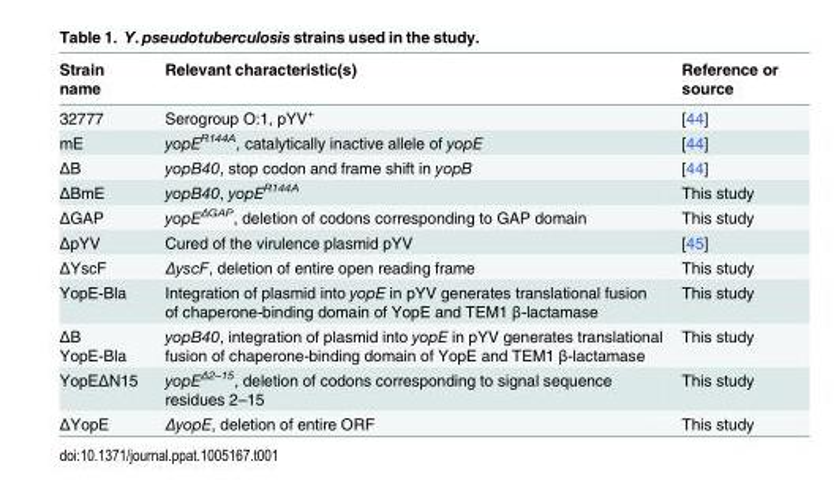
<table><thead><tr><td>Strain name</td><td>Relevant characteristic(s)</td><td>Reference or source</td></tr></thead><tbody><tr><td>32777</td><td>Serogroup O:1, pYV<sup>+</sup></td><td>[44]</td></tr><tr><td>mE</td><td>yopE<sup>R144A</sup>, catalytically inactive allele of yopE</td><td>[44]</td></tr><tr><td>ΔB</td><td>yopB40, stop codon and frame shift in yopB</td><td>[44]</td></tr><tr><td>ΔBmE</td><td>yopB40, yopE<sup>R144A</sup></td><td>This study</td></tr><tr><td>ΔGAP</td><td>yopE<sup>ΔGAP</sup>, deletion of codons corresponding to GAP domain</td><td>This study</td></tr><tr><td>ΔpYV</td><td>Cured of the virulence plasmid pYV</td><td>[45]</td></tr><tr><td>ΔYscF</td><td>ΔyscF, deletion of entire open reading frame</td><td>This study</td></tr><tr><td>YopE-Bla</td><td>Integration of plasmid into yopE in pYV generates translational fusion of chaperone-binding domain of YopE and TEM1 β-lactamase</td><td>This study</td></tr><tr><td>ΔB YopE-Bla</td><td>yopB40, integration of plasmid into yopE in pYV generates translational fusion of chaperone-binding domain of YopE and TEM1 β-lactamase</td><td>This study</td></tr><tr><td>YopEΔN15</td><td>yopE<sup>Δ2–15</sup>, deletion of codons corresponding to signal sequence residues 2–15</td><td>This study</td></tr><tr><td>ΔYopE</td><td>ΔyopE, deletion of entire ORF</td><td>This study</td></tr></tbody></table>